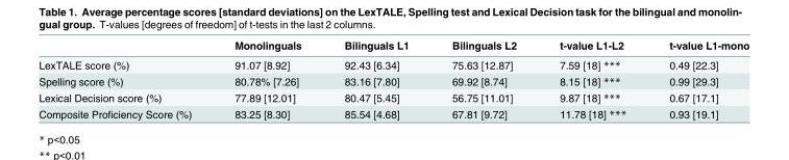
<table><thead><tr><td></td><td>Monolinguals</td><td>Bilinguals L1</td><td>Bilinguals L2</td><td>t-value L1-L2</td><td>t-value L1-mono</td></tr></thead><tbody><tr><td>LexTALE score (%)</td><td>91.07 [8.92]</td><td>92.43 [6.34]</td><td>75.63 [12.87]</td><td>7.59 [18] ***</td><td>0.49 [22.3]</td></tr><tr><td>Spelling score (%)</td><td>80.78% [7.26]</td><td>83.16 [7.80]</td><td>69.92 [8.74]</td><td>8.15 [18] ***</td><td>0.99 [29.3]</td></tr><tr><td>Lexical Decision score (%)</td><td>77.89 [12.01]</td><td>80.47 [5.45]</td><td>56.75 [11.01]</td><td>9.87 [18] ***</td><td>0.67 [17.1]</td></tr><tr><td>Composite Proficiency Score (%)</td><td>83.25 [8.30]</td><td>85.54 [4.68]</td><td>67.81 [9.72]</td><td>11.78 [18] ***</td><td>0.93 [19.1]</td></tr></tbody></table>